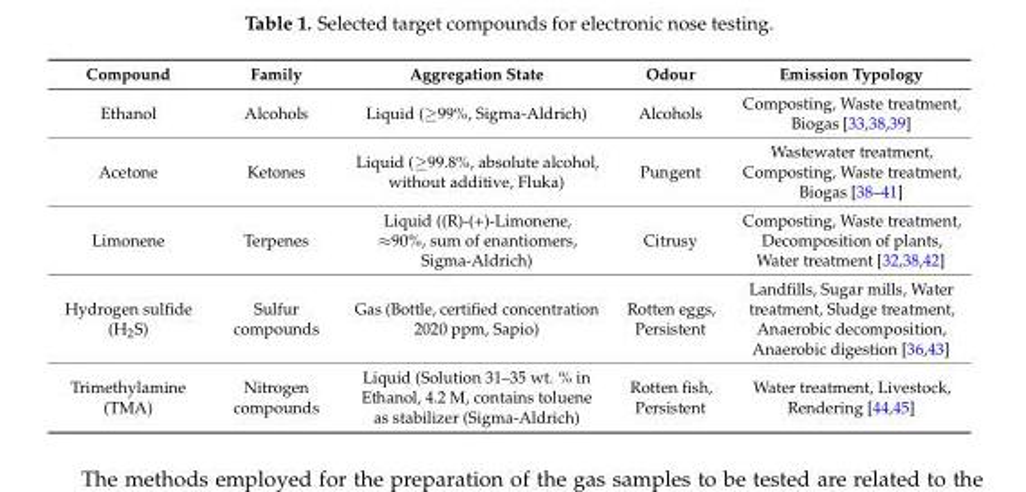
<table><thead><tr><td>Compound</td><td>Family</td><td>Aggregation State</td><td>Odour</td><td>Emission Typology</td></tr></thead><tbody><tr><td>Ethanol</td><td>Alcohols</td><td>Liquid (≥99%, Sigma-Aldrich)</td><td>Alcohols</td><td>Composting, Waste treatment, Biogas [33,38,39]</td></tr><tr><td>Acetone</td><td>Ketones</td><td>Liquid (≥99.8%, absolute alcohol, without additive, Fluka)</td><td>Pungent</td><td>Wastewater treatment, Composting, Waste treatment, Biogas [38–41]</td></tr><tr><td>Limonene</td><td>Terpenes</td><td>Liquid ((R)-(+)-Limonene, ≈90%, sum of enantiomers, Sigma-Aldrich)</td><td>Citrusy</td><td>Composting, Waste treatment, Decomposition of plants, Water treatment [32,38,42]</td></tr><tr><td>Hydrogen sulfide (H<sub>2</sub>S)</td><td>Sulfur compounds</td><td>Gas (Bottle, certified concentration 2020 ppm, Sapio)</td><td>Rotten eggs, Persistent</td><td>Landfills, Sugar mills, Water treatment, Sludge treatment, Anaerobic decomposition, Anaerobic digestion [36,43]</td></tr><tr><td>Trimethylamine (TMA)</td><td>Nitrogen compounds</td><td>Liquid (Solution 31–35 wt. % in Ethanol, 4.2 M, contains toluene as stabilizer (Sigma-Aldrich)</td><td>Rotten fish, Persistent</td><td>Water treatment, Livestock, Rendering [44,45]</td></tr></tbody></table>